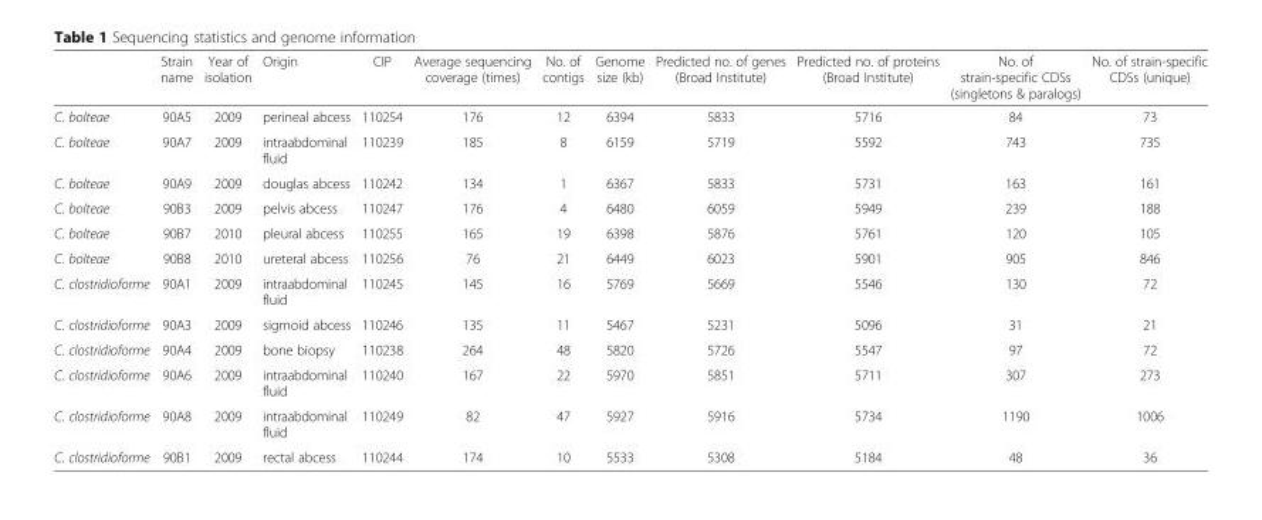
<table><thead><tr><td></td><td>Strain name</td><td>Year of isolation</td><td>Origin</td><td>CIP</td><td>Average sequencing coverage (times)</td><td>No. of contigs</td><td>Genome size (kb)</td><td>Predicted no. of genes (Broad Institute)</td><td>Predicted no. of proteins (Broad Institute)</td><td>No. of strain-specific CDSs (singletons &amp; paralogs)</td><td>No. of strain-specific CDSs (unique)</td></tr></thead><tbody><tr><td>C. bolteae</td><td>90A5</td><td>2009</td><td>perineal abcess</td><td>110254</td><td>176</td><td>12</td><td>6394</td><td>5833</td><td>5716</td><td>84</td><td>73</td></tr><tr><td>C. bolteae</td><td>90A7</td><td>2009</td><td>intraabdominal fluid</td><td>110239</td><td>185</td><td>8</td><td>6159</td><td>5719</td><td>5592</td><td>743</td><td>735</td></tr><tr><td>C. bolteae</td><td>90A9</td><td>2009</td><td>douglas abcess</td><td>110242</td><td>134</td><td>1</td><td>6367</td><td>5833</td><td>5731</td><td>163</td><td>161</td></tr><tr><td>C. bolteae</td><td>90B3</td><td>2009</td><td>pelvis abcess</td><td>110247</td><td>176</td><td>4</td><td>6480</td><td>6059</td><td>5949</td><td>239</td><td>188</td></tr><tr><td>C. bolteae</td><td>90B7</td><td>2010</td><td>pleural abcess</td><td>110255</td><td>165</td><td>19</td><td>6398</td><td>5876</td><td>5761</td><td>120</td><td>105</td></tr><tr><td>C. bolteae</td><td>90B8</td><td>2010</td><td>ureteral abcess</td><td>110256</td><td>76</td><td>21</td><td>6449</td><td>6023</td><td>5901</td><td>905</td><td>846</td></tr><tr><td>C. clostridioforme</td><td>90A1</td><td>2009</td><td>intraabdominal fluid</td><td>110245</td><td>145</td><td>16</td><td>5769</td><td>5669</td><td>5546</td><td>130</td><td>72</td></tr><tr><td>C. clostridioforme</td><td>90A3</td><td>2009</td><td>sigmoid abcess</td><td>110246</td><td>135</td><td>11</td><td>5467</td><td>5231</td><td>5096</td><td>31</td><td>21</td></tr><tr><td>C. clostridioforme</td><td>90A4</td><td>2009</td><td>bone biopsy</td><td>110238</td><td>264</td><td>48</td><td>5820</td><td>5726</td><td>5547</td><td>97</td><td>72</td></tr><tr><td>C. clostridioforme</td><td>90A6</td><td>2009</td><td>intraabdominal fluid</td><td>110240</td><td>167</td><td>22</td><td>5970</td><td>5851</td><td>5711</td><td>307</td><td>273</td></tr><tr><td>C. clostridioforme</td><td>90A8</td><td>2009</td><td>intraabdominal fluid</td><td>110249</td><td>82</td><td>47</td><td>5927</td><td>5916</td><td>5734</td><td>1190</td><td>1006</td></tr><tr><td>C. clostridioforme</td><td>90B1</td><td>2009</td><td>rectal abcess</td><td>110244</td><td>174</td><td>10</td><td>5533</td><td>5308</td><td>5184</td><td>48</td><td>36</td></tr></tbody></table>